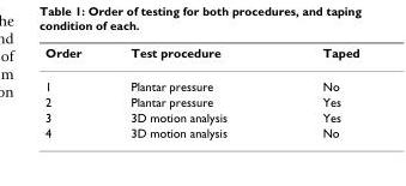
<table><thead><tr><td>Order</td><td>Test procedure</td><td>Taped</td></tr></thead><tbody><tr><td>1</td><td>Plantar pressure</td><td>No</td></tr><tr><td>2</td><td>Plantar pressure</td><td>Yes</td></tr><tr><td>3</td><td>3D motion analysis</td><td>Yes</td></tr><tr><td>4</td><td>3D motion analysis</td><td>No</td></tr></tbody></table>